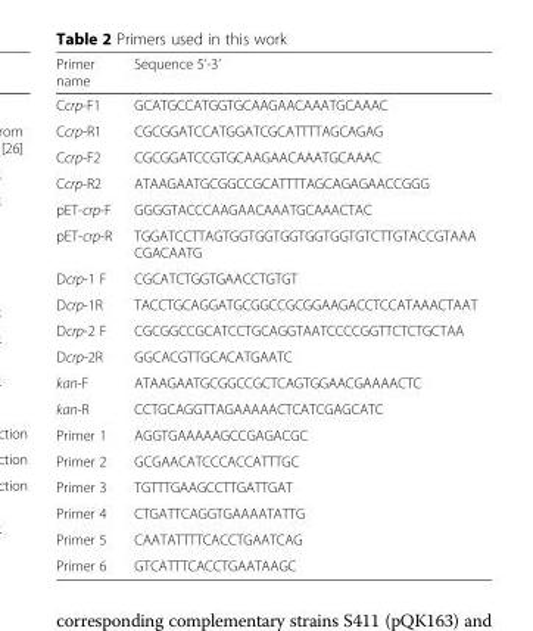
<table><thead><tr><td>Primer name</td><td>Sequence 5’-3’</td></tr></thead><tbody><tr><td>Ccrp-F1</td><td>GCATGCCATGGTGCAAGAACAAATGCAAAC</td></tr><tr><td>Ccrp-R1</td><td>CGCGGATCCATGGATCGCATTTTAGCAGAG</td></tr><tr><td>Ccrp-F2</td><td>CGCGGATCCGTGCAAGAACAAATGCAAAC</td></tr><tr><td>Ccrp-R2</td><td>ATAAGAATGCGGCCGCATTTTAGCAGAGAACCGGG</td></tr><tr><td>pET-crp-F</td><td>GGGGTACCCAAGAACAAATGCAAACTAC</td></tr><tr><td>pET-crp-R</td><td>TGGATCCTTAGTGGTGGTGGTGGTGGTGTCTTGTACCGTAAA CGACAATG</td></tr><tr><td>Dcrp-1 F</td><td>CGCATCTGGTGAACCTGTGT</td></tr><tr><td>Dcrp-1R</td><td>TACCTGCAGGATGCGGCCGCGGAAGACCTCCATAAACTAAT</td></tr><tr><td>Dcrp-2 F</td><td>CGCGGCCGCATCCTGCAGGTAATCCCCGGTTCTCTGCTAA</td></tr><tr><td>Dcrp-2R</td><td>GGCACGTTGCACATGAATC</td></tr><tr><td>kan-F</td><td>ATAAGAATGCGGCCGCTCAGTGGAACGAAAACTC</td></tr><tr><td>kan-R</td><td>CCTGCAGGTTAGAAAAACTCATCGAGCATC</td></tr><tr><td>Primer 1</td><td>AGGTGAAAAAGCCGAGACGC</td></tr><tr><td>Primer 2</td><td>GCGAACATCCCACCATTTGC</td></tr><tr><td>Primer 3</td><td>TGTTTGAAGCCTTGATTGAT</td></tr><tr><td>Primer 4</td><td>CTGATTCAGGTGAAAATATTG</td></tr><tr><td>Primer 5</td><td>CAATATTTTCACCTGAATCAG</td></tr><tr><td>Primer 6</td><td>GTCATTTCACCTGAATAAGC</td></tr></tbody></table>